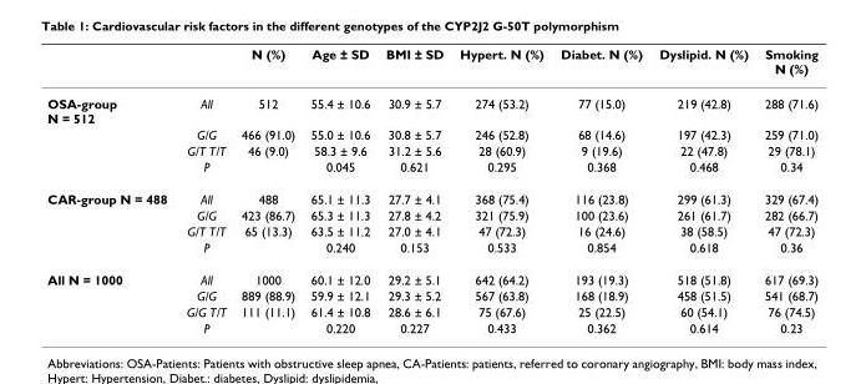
<table><thead><tr><td></td><td></td><td>N (%)</td><td>Age ± SD</td><td>BMI ± SD</td><td>Hypert. N (%)</td><td>Diabet. N (%)</td><td>Dyslipid. N (%)</td><td>Smoking N (%)</td></tr></thead><tbody><tr><td rowspan="4">OSA-group N = 512</td><td>All</td><td>512</td><td>55.4 ± 10.6</td><td>30.9 ± 5.7</td><td>274 (53.2)</td><td>77 (15.0)</td><td>219 (42.8)</td><td>288 (71.6)</td></tr><tr><td>G/G</td><td>466 (91.0)</td><td>55.0 ± 10.6</td><td>30.8 ± 5.7</td><td>246 (52.8)</td><td>68 (14.6)</td><td>197 (42.3)</td><td>259 (71.0)</td></tr><tr><td>G/T T/T</td><td>46 (9.0)</td><td>58.3 ± 9.6</td><td>31.2 ± 5.6</td><td>28 (60.9)</td><td>9 (19.6)</td><td>22 (47.8)</td><td>29 (78.1)</td></tr><tr><td>P</td><td></td><td>0.045</td><td>0.621</td><td>0.295</td><td>0.368</td><td>0.468</td><td>0.34</td></tr><tr><td rowspan="4">CAR-group N = 488</td><td>All</td><td>488</td><td>65.1 ± 11.3</td><td>27.7 ± 4.1</td><td>368 (75.4)</td><td>116 (23.8)</td><td>299 (61.3)</td><td>329 (67.4)</td></tr><tr><td>G/G</td><td>423 (86.7)</td><td>65.3 ± 11.3</td><td>27.8 ± 4.2</td><td>321 (75.9)</td><td>100 (23.6)</td><td>261 (61.7)</td><td>282 (66.7)</td></tr><tr><td>G/T T/T</td><td>65 (13.3)</td><td>63.5 ± 11.2</td><td>27.0 ± 4.1</td><td>47 (72.3)</td><td>16 (24.6)</td><td>38 (58.5)</td><td>47 (72.3)</td></tr><tr><td>P</td><td></td><td>0.240</td><td>0.153</td><td>0.533</td><td>0.854</td><td>0.618</td><td>0.36</td></tr><tr><td rowspan="4">All N = 1000</td><td>All</td><td>1000</td><td>60.1 ± 12.0</td><td>29.2 ± 5.1</td><td>642 (64.2)</td><td>193 (19.3)</td><td>518 (51.8)</td><td>617 (69.3)</td></tr><tr><td>G/G</td><td>889 (88.9)</td><td>59.9 ± 12.1</td><td>29.3 ± 5.2</td><td>567 (63.8)</td><td>168 (18.9)</td><td>458 (51.5)</td><td>541 (68.7)</td></tr><tr><td>G/G T/T</td><td>111 (11.1)</td><td>61.4 ± 10.8</td><td>28.6 ± 6.1</td><td>75 (67.6)</td><td>25 (22.5)</td><td>60 (54.1)</td><td>76 (74.5)</td></tr><tr><td>P</td><td></td><td>0.220</td><td>0.227</td><td>0.433</td><td>0.362</td><td>0.614</td><td>0.23</td></tr></tbody></table>